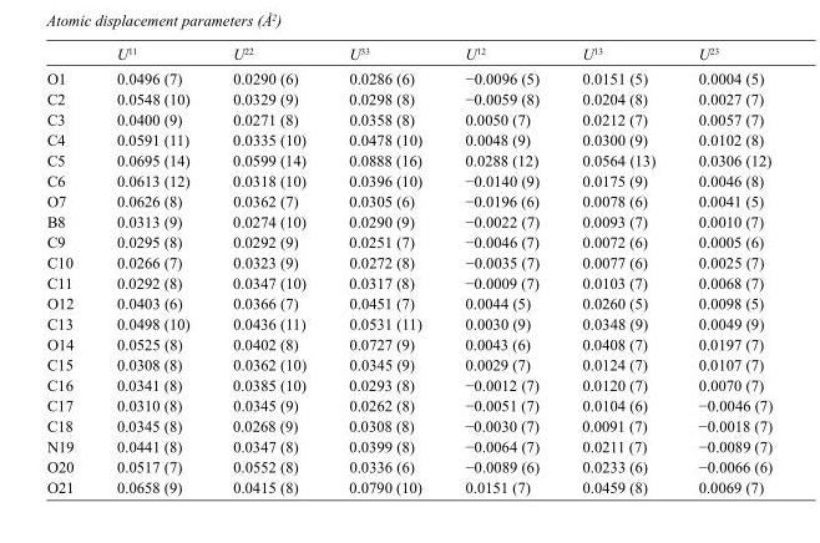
<table><thead><tr><td></td><td>U<sup>11</sup></td><td>U<sup>22</sup></td><td>U<sup>33</sup></td><td>U<sup>12</sup></td><td>U<sup>13</sup></td><td>U<sup>23</sup></td></tr></thead><tbody><tr><td>O1</td><td>0.0496 (7)</td><td>0.0290 (6)</td><td>0.0286 (6)</td><td>−0.0096 (5)</td><td>0.0151 (5)</td><td>0.0004 (5)</td></tr><tr><td>C2</td><td>0.0548 (10)</td><td>0.0329 (9)</td><td>0.0298 (8)</td><td>−0.0059 (8)</td><td>0.0204 (8)</td><td>0.0027 (7)</td></tr><tr><td>C3</td><td>0.0400 (9)</td><td>0.0271 (8)</td><td>0.0358 (8)</td><td>0.0050 (7)</td><td>0.0212 (7)</td><td>0.0057 (7)</td></tr><tr><td>C4</td><td>0.0591 (11)</td><td>0.0335 (10)</td><td>0.0478 (10)</td><td>0.0048 (9)</td><td>0.0300 (9)</td><td>0.0102 (8)</td></tr><tr><td>C5</td><td>0.0695 (14)</td><td>0.0599 (14)</td><td>0.0888 (16)</td><td>0.0288 (12)</td><td>0.0564 (13)</td><td>0.0306 (12)</td></tr><tr><td>C6</td><td>0.0613 (12)</td><td>0.0318 (10)</td><td>0.0396 (10)</td><td>−0.0140 (9)</td><td>0.0175 (9)</td><td>0.0046 (8)</td></tr><tr><td>O7</td><td>0.0626 (8)</td><td>0.0362 (7)</td><td>0.0305 (6)</td><td>−0.0196 (6)</td><td>0.0078 (6)</td><td>0.0041 (5)</td></tr><tr><td>B8</td><td>0.0313 (9)</td><td>0.0274 (10)</td><td>0.0290 (9)</td><td>−0.0022 (7)</td><td>0.0093 (7)</td><td>0.0010 (7)</td></tr><tr><td>C9</td><td>0.0295 (8)</td><td>0.0292 (9)</td><td>0.0251 (7)</td><td>−0.0046 (7)</td><td>0.0072 (6)</td><td>0.0005 (6)</td></tr><tr><td>C10</td><td>0.0266 (7)</td><td>0.0323 (9)</td><td>0.0272 (8)</td><td>−0.0035 (7)</td><td>0.0077 (6)</td><td>0.0025 (7)</td></tr><tr><td>C11</td><td>0.0292 (8)</td><td>0.0347 (10)</td><td>0.0317 (8)</td><td>−0.0009 (7)</td><td>0.0103 (7)</td><td>0.0068 (7)</td></tr><tr><td>O12</td><td>0.0403 (6)</td><td>0.0366 (7)</td><td>0.0451 (7)</td><td>0.0044 (5)</td><td>0.0260 (5)</td><td>0.0098 (5)</td></tr><tr><td>C13</td><td>0.0498 (10)</td><td>0.0436 (11)</td><td>0.0531 (11)</td><td>0.0030 (9)</td><td>0.0348 (9)</td><td>0.0049 (9)</td></tr><tr><td>O14</td><td>0.0525 (8)</td><td>0.0402 (8)</td><td>0.0727 (9)</td><td>0.0043 (6)</td><td>0.0408 (7)</td><td>0.0197 (7)</td></tr><tr><td>C15</td><td>0.0308 (8)</td><td>0.0362 (10)</td><td>0.0345 (9)</td><td>0.0029 (7)</td><td>0.0124 (7)</td><td>0.0107 (7)</td></tr><tr><td>C16</td><td>0.0341 (8)</td><td>0.0385 (10)</td><td>0.0293 (8)</td><td>−0.0012 (7)</td><td>0.0120 (7)</td><td>0.0070 (7)</td></tr><tr><td>C17</td><td>0.0310 (8)</td><td>0.0345 (9)</td><td>0.0262 (8)</td><td>−0.0051 (7)</td><td>0.0104 (6)</td><td>−0.0046 (7)</td></tr><tr><td>C18</td><td>0.0345 (8)</td><td>0.0268 (9)</td><td>0.0308 (8)</td><td>−0.0030 (7)</td><td>0.0091 (7)</td><td>−0.0018 (7)</td></tr><tr><td>N19</td><td>0.0441 (8)</td><td>0.0347 (8)</td><td>0.0399 (8)</td><td>−0.0064 (7)</td><td>0.0211 (7)</td><td>−0.0089 (7)</td></tr><tr><td>O20</td><td>0.0517 (7)</td><td>0.0552 (8)</td><td>0.0336 (6)</td><td>−0.0089 (6)</td><td>0.0233 (6)</td><td>−0.0066 (6)</td></tr><tr><td>O21</td><td>0.0658 (9)</td><td>0.0415 (8)</td><td>0.0790 (10)</td><td>0.0151 (7)</td><td>0.0459 (8)</td><td>0.0069 (7)</td></tr></tbody></table>